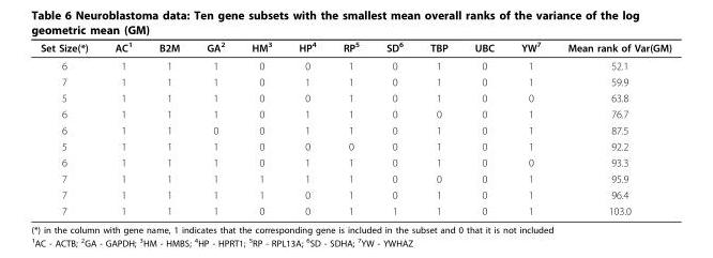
<table><thead><tr><td>Set Size(*)</td><td>AC<sup>1</sup></td><td>B2M</td><td>GA<sup>2</sup></td><td>HM<sup>3</sup></td><td>HP<sup>4</sup></td><td>RP<sup>5</sup></td><td>SD<sup>6</sup></td><td>TBP</td><td>UBC</td><td>YW<sup>7</sup></td><td>Mean rank of Var(GM)</td></tr></thead><tbody><tr><td>6</td><td>1</td><td>1</td><td>1</td><td>0</td><td>0</td><td>1</td><td>0</td><td>1</td><td>0</td><td>1</td><td>52.1</td></tr><tr><td>7</td><td>1</td><td>1</td><td>1</td><td>0</td><td>1</td><td>1</td><td>0</td><td>1</td><td>0</td><td>1</td><td>59.9</td></tr><tr><td>5</td><td>1</td><td>1</td><td>1</td><td>0</td><td>0</td><td>1</td><td>0</td><td>1</td><td>0</td><td>0</td><td>63.8</td></tr><tr><td>6</td><td>1</td><td>1</td><td>1</td><td>0</td><td>1</td><td>1</td><td>0</td><td>0</td><td>0</td><td>1</td><td>76.7</td></tr><tr><td>6</td><td>1</td><td>1</td><td>0</td><td>0</td><td>1</td><td>1</td><td>0</td><td>1</td><td>0</td><td>1</td><td>87.5</td></tr><tr><td>5</td><td>1</td><td>1</td><td>1</td><td>0</td><td>0</td><td>0</td><td>0</td><td>1</td><td>0</td><td>1</td><td>92.2</td></tr><tr><td>6</td><td>1</td><td>1</td><td>1</td><td>0</td><td>1</td><td>1</td><td>0</td><td>1</td><td>0</td><td>0</td><td>93.3</td></tr><tr><td>7</td><td>1</td><td>1</td><td>1</td><td>1</td><td>1</td><td>1</td><td>0</td><td>0</td><td>0</td><td>1</td><td>95.9</td></tr><tr><td>7</td><td>1</td><td>1</td><td>1</td><td>1</td><td>0</td><td>1</td><td>0</td><td>1</td><td>0</td><td>1</td><td>96.4</td></tr><tr><td>7</td><td>1</td><td>1</td><td>1</td><td>0</td><td>0</td><td>1</td><td>1</td><td>1</td><td>0</td><td>1</td><td>103.0</td></tr></tbody></table>